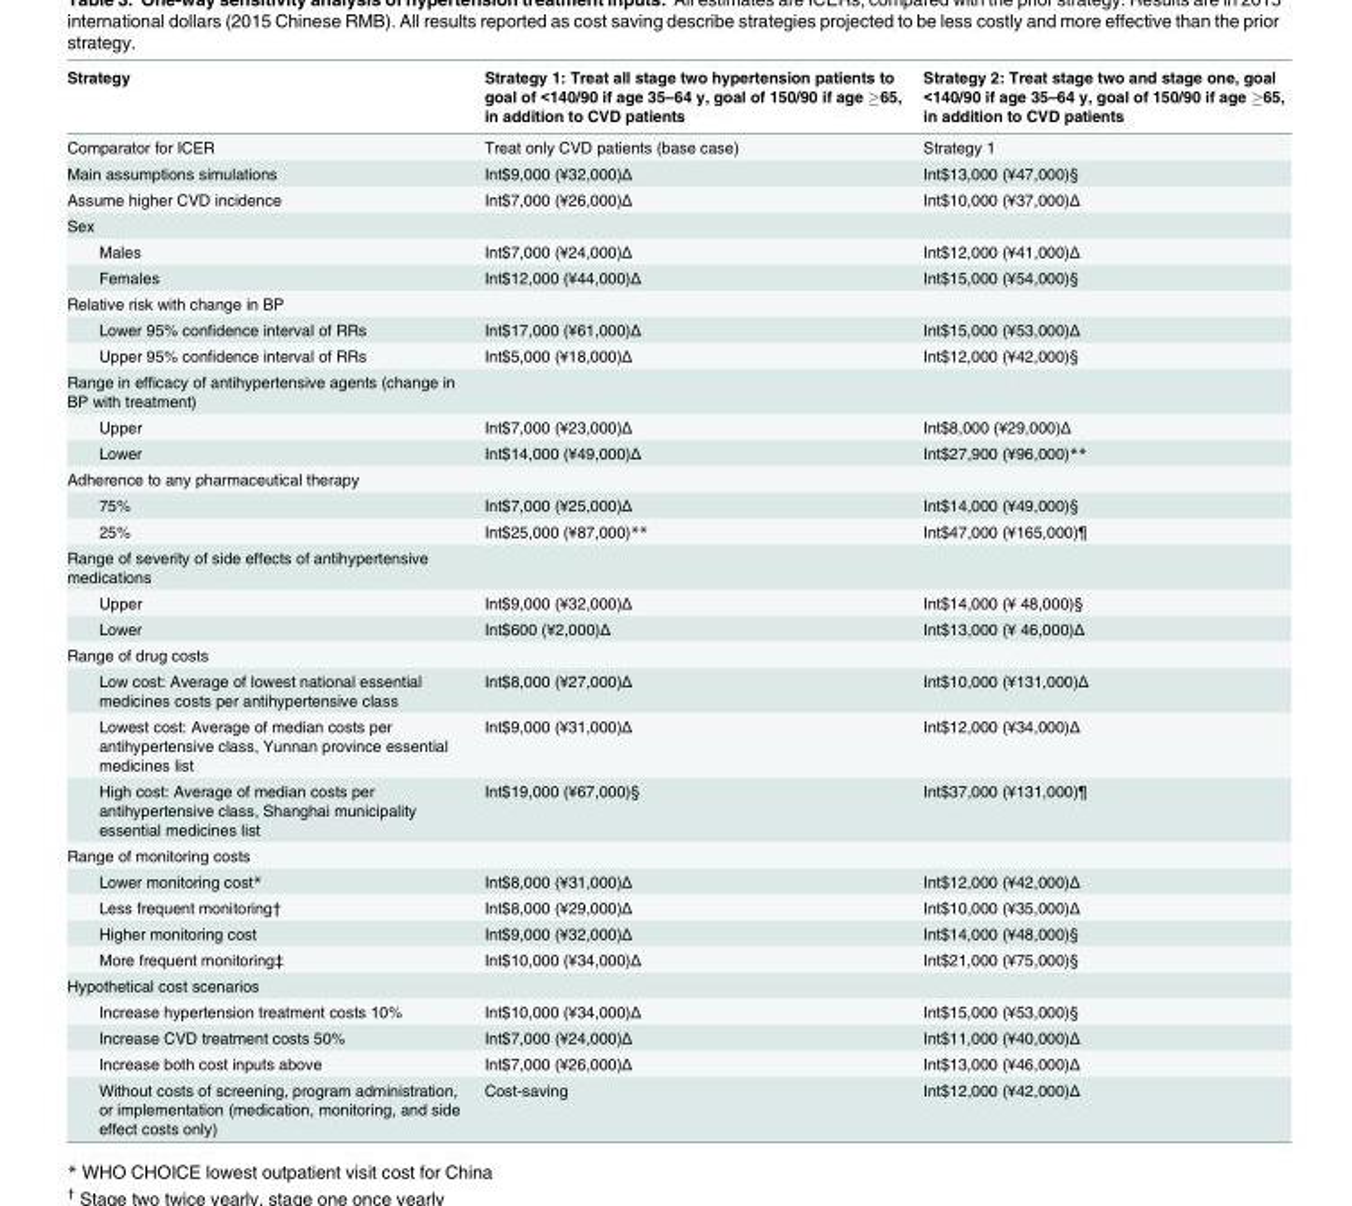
<table><thead><tr><td>Strategy</td><td>Strategy 1: Treat all stage two hypertension patients to goal of &lt;140/90 if age 35–64 y, goal of 150/90 if age ≥65, in addition to CVD patients</td><td>Strategy 2: Treat stage two and stage one, goal &lt;140/90 if age 35–64 y, goal of 150/90 if age ≥65, in addition to CVD patients</td></tr></thead><tbody><tr><td>Comparator for ICER</td><td>Treat only CVD patients (base case)</td><td>Strategy 1</td></tr><tr><td>Main assumptions simulations</td><td>Int$9,000 (¥32,000)Δ</td><td>Int$13,000 (¥47,000)§</td></tr><tr><td>Assume higher CVD incidence</td><td>Int$7,000 (¥26,000)Δ</td><td>Int$10,000 (¥37,000)Δ</td></tr><tr><td colspan="3">Sex</td></tr><tr><td>Males</td><td>Int$7,000 (¥24,000)Δ</td><td>Int$12,000 (¥41,000)Δ</td></tr><tr><td>Females</td><td>Int$12,000 (¥44,000)Δ</td><td>Int$15,000 (¥54,000)§</td></tr><tr><td colspan="3">Relative risk with change in BP</td></tr><tr><td>Lower 95% confidence interval of RRs</td><td>Int$17,000 (¥61,000)Δ</td><td>Int$15,000 (¥53,000)Δ</td></tr><tr><td>Upper 95% confidence interval of RRs</td><td>Int$5,000 (¥18,000)Δ</td><td>Int$12,000 (¥42,000)§</td></tr><tr><td colspan="3">Range in efficacy of antihypertensive agents (change in BP with treatment)</td></tr><tr><td>Upper</td><td>Int$7,000 (¥23,000)Δ</td><td>Int$8,000 (¥29,000)Δ</td></tr><tr><td>Lower</td><td>Int$14,000 (¥49,000)Δ</td><td>Int$27,900 (¥96,000)**</td></tr><tr><td colspan="3">Adherence to any pharmaceutical therapy</td></tr><tr><td>75%</td><td>Int$7,000 (¥25,000)Δ</td><td>Int$14,000 (¥49,000)§</td></tr><tr><td>25%</td><td>Int$25,000 (¥87,000)**</td><td>Int$47,000 (¥165,000)¶</td></tr><tr><td colspan="3">Range of severity of side effects of antihypertensive medications</td></tr><tr><td>Upper</td><td>Int$9,000 (¥32,000)Δ</td><td>Int$14,000 (¥ 48,000)§</td></tr><tr><td>Lower</td><td>Int$600 (¥2,000)Δ</td><td>Int$13,000 (¥ 46,000)Δ</td></tr><tr><td colspan="3">Range of drug costs</td></tr><tr><td>Low cost: Average of lowest national essential medicines costs per antihypertensive class</td><td>Int$8,000 (¥27,000)Δ</td><td>Int$10,000 (¥131,000)Δ</td></tr><tr><td>Lowest cost: Average of median costs per antihypertensive class, Yunnan province essential medicines list</td><td>Int$9,000 (¥31,000)Δ</td><td>Int$12,000 (¥34,000)Δ</td></tr><tr><td>High cost: Average of median costs per antihypertensive class, Shanghai municipality essential medicines list</td><td>Int$19,000 (¥67,000)§</td><td>Int$37,000 (¥131,000)¶</td></tr><tr><td colspan="3">Range of monitoring costs</td></tr><tr><td>Lower monitoring cost*</td><td>Int$8,000 (¥31,000)Δ</td><td>Int$12,000 (¥42,000)Δ</td></tr><tr><td>Less frequent monitoring†</td><td>Int$8,000 (¥29,000)Δ</td><td>Int$10,000 (¥35,000)Δ</td></tr><tr><td>Higher monitoring cost</td><td>Int$9,000 (¥32,000)Δ</td><td>Int$14,000 (¥48,000)§</td></tr><tr><td>More frequent monitoring‡</td><td>Int$10,000 (¥34,000)Δ</td><td>Int$21,000 (¥75,000)§</td></tr><tr><td colspan="3">Hypothetical cost scenarios</td></tr><tr><td>Increase hypertension treatment costs 10%</td><td>Int$10,000 (¥34,000)Δ</td><td>Int$15,000 (¥53,000)§</td></tr><tr><td>Increase CVD treatment costs 50%</td><td>Int$7,000 (¥24,000)Δ</td><td>Int$11,000 (¥40,000)Δ</td></tr><tr><td>Increase both cost inputs above</td><td>Int$7,000 (¥26,000)Δ</td><td>Int$13,000 (¥46,000)Δ</td></tr><tr><td>Without costs of screening, program administration, or implementation (medication, monitoring, and side effect costs only)</td><td>Cost-saving</td><td>Int$12,000 (¥42,000)Δ</td></tr></tbody></table>